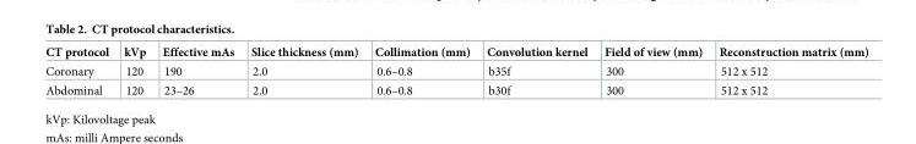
<table><thead><tr><td>CT protocol</td><td>kVp</td><td>Effective mAs</td><td>Slice thickness (mm)</td><td>Collimation (mm)</td><td>Convolution kernel</td><td>Field of view (mm)</td><td>Reconstruction matrix (mm)</td></tr></thead><tbody><tr><td>Coronary</td><td>120</td><td>190</td><td>2.0</td><td>0.6–0.8</td><td>b35f</td><td>300</td><td>512 x 512</td></tr><tr><td>Abdominal</td><td>120</td><td>23–26</td><td>2.0</td><td>0.6–0.8</td><td>b30f</td><td>300</td><td>512 x 512</td></tr></tbody></table>